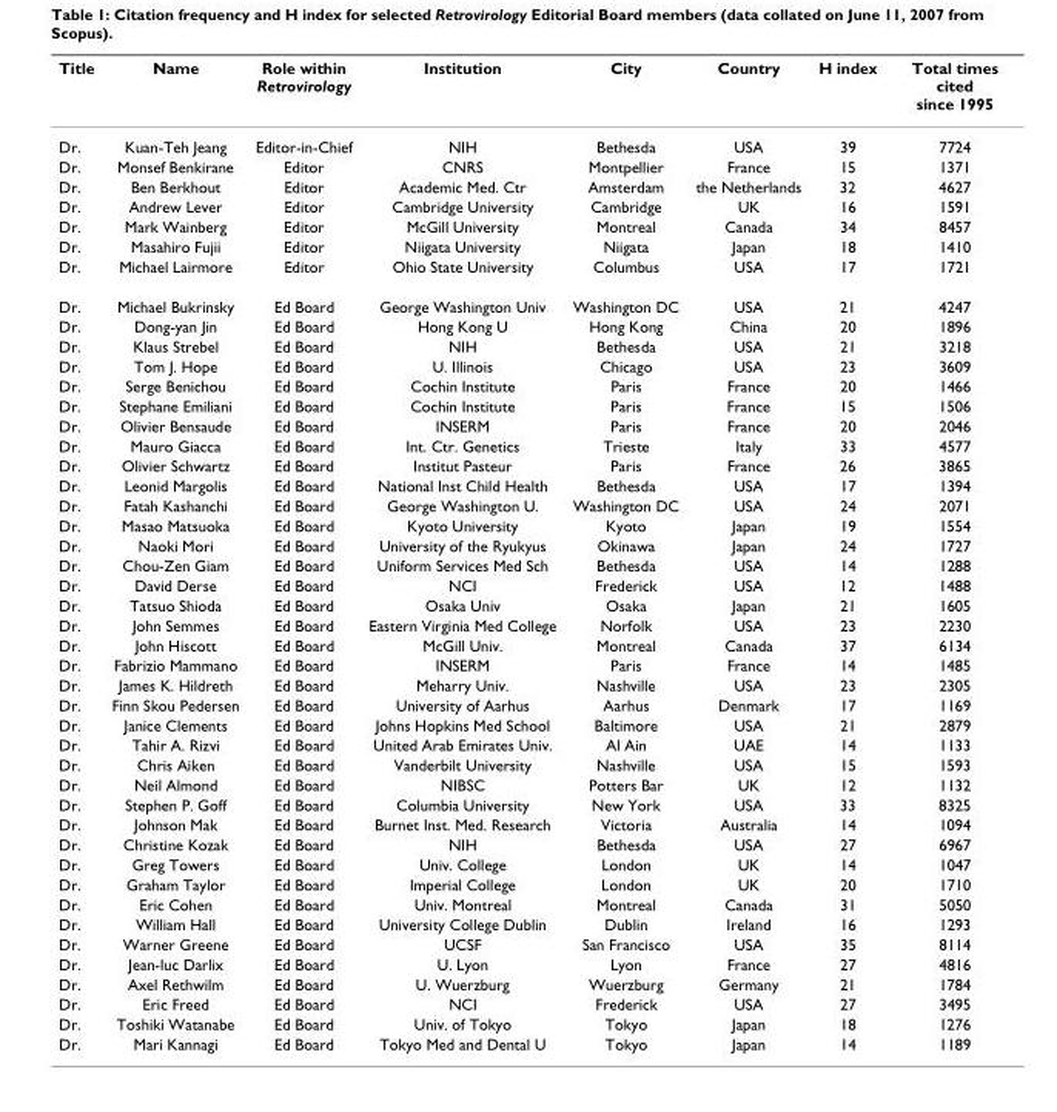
<table><thead><tr><td>Title</td><td>Name</td><td>Role within Retrovirology</td><td>Institution</td><td>City</td><td>Country</td><td>H index</td><td>Total times cited since 1995</td></tr></thead><tbody><tr><td>Dr.</td><td>Kuan-Teh Jeang</td><td>Editor-in-Chief</td><td>NIH</td><td>Bethesda</td><td>USA</td><td>39</td><td>7724</td></tr><tr><td>Dr.</td><td>Monsef Benkirane</td><td>Editor</td><td>CNRS</td><td>Montpellier</td><td>France</td><td>15</td><td>1371</td></tr><tr><td>Dr.</td><td>Ben Berkhout</td><td>Editor</td><td>Academic Med. Ctr</td><td>Amsterdam</td><td>the Netherlands</td><td>32</td><td>4627</td></tr><tr><td>Dr.</td><td>Andrew Lever</td><td>Editor</td><td>Cambridge University</td><td>Cambridge</td><td>UK</td><td>16</td><td>1591</td></tr><tr><td>Dr.</td><td>Mark Wainberg</td><td>Editor</td><td>McGill University</td><td>Montreal</td><td>Canada</td><td>34</td><td>8457</td></tr><tr><td>Dr.</td><td>Masahiro Fujii</td><td>Editor</td><td>Niigata University</td><td>Niigata</td><td>Japan</td><td>18</td><td>1410</td></tr><tr><td>Dr.</td><td>Michael Lairmore</td><td>Editor</td><td>Ohio State University</td><td>Columbus</td><td>USA</td><td>17</td><td>1721</td></tr><tr><td>Dr.</td><td>Michael Bukrinsky</td><td>Ed Board</td><td>George Washington Univ</td><td>Washington DC</td><td>USA</td><td>21</td><td>4247</td></tr><tr><td>Dr.</td><td>Dong-yan Jin</td><td>Ed Board</td><td>Hong Kong U</td><td>Hong Kong</td><td>China</td><td>20</td><td>1896</td></tr><tr><td>Dr.</td><td>Klaus Strebel</td><td>Ed Board</td><td>NIH</td><td>Bethesda</td><td>USA</td><td>21</td><td>3218</td></tr><tr><td>Dr.</td><td>Tom J. Hope</td><td>Ed Board</td><td>U. Illinois</td><td>Chicago</td><td>USA</td><td>23</td><td>3609</td></tr><tr><td>Dr.</td><td>Serge Benichou</td><td>Ed Board</td><td>Cochin Institute</td><td>Paris</td><td>France</td><td>20</td><td>1466</td></tr><tr><td>Dr.</td><td>Stephane Emiliani</td><td>Ed Board</td><td>Cochin Institute</td><td>Paris</td><td>France</td><td>15</td><td>1506</td></tr><tr><td>Dr.</td><td>Olivier Bensaude</td><td>Ed Board</td><td>INSERM</td><td>Paris</td><td>France</td><td>20</td><td>2046</td></tr><tr><td>Dr.</td><td>Mauro Giacca</td><td>Ed Board</td><td>Int. Ctr. Genetics</td><td>Trieste</td><td>Italy</td><td>33</td><td>4577</td></tr><tr><td>Dr.</td><td>Olivier Schwartz</td><td>Ed Board</td><td>Institut Pasteur</td><td>Paris</td><td>France</td><td>26</td><td>3865</td></tr><tr><td>Dr.</td><td>Leonid Margolis</td><td>Ed Board</td><td>National Inst Child Health</td><td>Bethesda</td><td>USA</td><td>17</td><td>1394</td></tr><tr><td>Dr.</td><td>Fatah Kashanchi</td><td>Ed Board</td><td>George Washington U.</td><td>Washington DC</td><td>USA</td><td>24</td><td>2071</td></tr><tr><td>Dr.</td><td>Masao Matsuoka</td><td>Ed Board</td><td>Kyoto University</td><td>Kyoto</td><td>Japan</td><td>19</td><td>1554</td></tr><tr><td>Dr.</td><td>Naoki Mori</td><td>Ed Board</td><td>University of the Ryukyus</td><td>Okinawa</td><td>Japan</td><td>24</td><td>1727</td></tr><tr><td>Dr.</td><td>Chou-Zen Giam</td><td>Ed Board</td><td>Uniform Services Med Sch</td><td>Bethesda</td><td>USA</td><td>14</td><td>1288</td></tr><tr><td>Dr.</td><td>David Derse</td><td>Ed Board</td><td>NCI</td><td>Frederick</td><td>USA</td><td>12</td><td>1488</td></tr><tr><td>Dr.</td><td>Tatsuo Shioda</td><td>Ed Board</td><td>Osaka Univ</td><td>Osaka</td><td>Japan</td><td>21</td><td>1605</td></tr><tr><td>Dr.</td><td>John Semmes</td><td>Ed Board</td><td>Eastern Virginia Med College</td><td>Norfolk</td><td>USA</td><td>23</td><td>2230</td></tr><tr><td>Dr.</td><td>John Hiscott</td><td>Ed Board</td><td>McGill Univ.</td><td>Montreal</td><td>Canada</td><td>37</td><td>6134</td></tr><tr><td>Dr.</td><td>Fabrizio Mammano</td><td>Ed Board</td><td>INSERM</td><td>Paris</td><td>France</td><td>14</td><td>1485</td></tr><tr><td>Dr.</td><td>James K. Hildreth</td><td>Ed Board</td><td>Meharry Univ.</td><td>Nashville</td><td>USA</td><td>23</td><td>2305</td></tr><tr><td>Dr.</td><td>Finn Skou Pedersen</td><td>Ed Board</td><td>University of Aarhus</td><td>Aarhus</td><td>Denmark</td><td>17</td><td>1169</td></tr><tr><td>Dr.</td><td>Janice Clements</td><td>Ed Board</td><td>Johns Hopkins Med School</td><td>Baltimore</td><td>USA</td><td>21</td><td>2879</td></tr><tr><td>Dr.</td><td>Tahir A. Rizvi</td><td>Ed Board</td><td>United Arab Emirates Univ.</td><td>Al Ain</td><td>UAE</td><td>14</td><td>1133</td></tr><tr><td>Dr.</td><td>Chris Aiken</td><td>Ed Board</td><td>Vanderbilt University</td><td>Nashville</td><td>USA</td><td>15</td><td>1593</td></tr><tr><td>Dr.</td><td>Neil Almond</td><td>Ed Board</td><td>NIBSC</td><td>Potters Bar</td><td>UK</td><td>12</td><td>1132</td></tr><tr><td>Dr.</td><td>Stephen P. Goff</td><td>Ed Board</td><td>Columbia University</td><td>New York</td><td>USA</td><td>33</td><td>8325</td></tr><tr><td>Dr.</td><td>Johnson Mak</td><td>Ed Board</td><td>Burnet Inst. Med. Research</td><td>Victoria</td><td>Australia</td><td>14</td><td>1094</td></tr><tr><td>Dr.</td><td>Christine Kozak</td><td>Ed Board</td><td>NIH</td><td>Bethesda</td><td>USA</td><td>27</td><td>6967</td></tr><tr><td>Dr.</td><td>Greg Towers</td><td>Ed Board</td><td>Univ. College</td><td>London</td><td>UK</td><td>14</td><td>1047</td></tr><tr><td>Dr.</td><td>Graham Taylor</td><td>Ed Board</td><td>Imperial College</td><td>London</td><td>UK</td><td>20</td><td>1710</td></tr><tr><td>Dr.</td><td>Eric Cohen</td><td>Ed Board</td><td>Univ. Montreal</td><td>Montreal</td><td>Canada</td><td>31</td><td>5050</td></tr><tr><td>Dr.</td><td>William Hall</td><td>Ed Board</td><td>University College Dublin</td><td>Dublin</td><td>Ireland</td><td>16</td><td>1293</td></tr><tr><td>Dr.</td><td>Warner Greene</td><td>Ed Board</td><td>UCSF</td><td>San Francisco</td><td>USA</td><td>35</td><td>8114</td></tr><tr><td>Dr.</td><td>Jean-luc Darlix</td><td>Ed Board</td><td>U. Lyon</td><td>Lyon</td><td>France</td><td>27</td><td>4816</td></tr><tr><td>Dr.</td><td>Axel Rethwilm</td><td>Ed Board</td><td>U. Wuerzburg</td><td>Wuerzburg</td><td>Germany</td><td>21</td><td>1784</td></tr><tr><td>Dr.</td><td>Eric Freed</td><td>Ed Board</td><td>NCI</td><td>Frederick</td><td>USA</td><td>27</td><td>3495</td></tr><tr><td>Dr.</td><td>Toshiki Watanabe</td><td>Ed Board</td><td>Univ. of Tokyo</td><td>Tokyo</td><td>Japan</td><td>18</td><td>1276</td></tr><tr><td>Dr.</td><td>Mari Kannagi</td><td>Ed Board</td><td>Tokyo Med and Dental U</td><td>Tokyo</td><td>Japan</td><td>14</td><td>1189</td></tr></tbody></table>